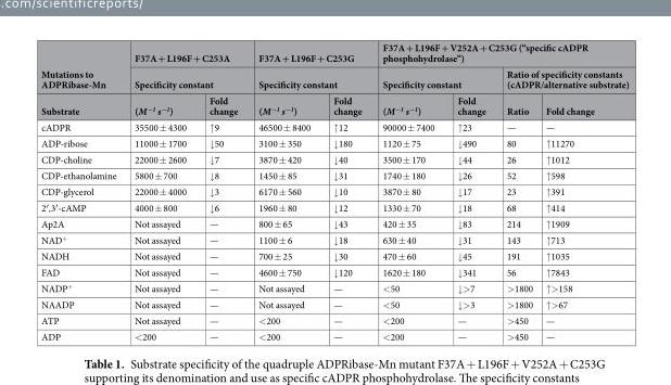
<table><thead><tr><td rowspan="3">Mutations to ADPRibase-Mn Substrate</td><td rowspan="2" colspan="2">F37A + L196F + C253A Specificity constant</td><td rowspan="2" colspan="2">F37A + L196F + C253G Specificity constant</td><td colspan="4">F37A + L196F + V252A + C253G (“specific cADPR phosphohydrolase”)</td></tr><tr><td colspan="2">Specificity constant</td><td colspan="2">Ratio of specificity constants (cADPR/alternative substrate)</td></tr><tr><td>(M<sup>−1</sup> s<sup>−1</sup>)</td><td>Fold change</td><td>(M<sup>−1</sup> s<sup>−1</sup>)</td><td>Fold change</td><td>(M<sup>−1</sup> s<sup>−1</sup>)</td><td>Fold change</td><td>Ratio</td><td>Fold change</td></tr></thead><tbody><tr><td>cADPR</td><td>35500 ± 4300</td><td>↑9</td><td>46500 ± 8400</td><td>↑12</td><td>90000 ± 7400</td><td>↑23</td><td>—</td><td>—</td></tr><tr><td>ADP-ribose</td><td>11000 ± 1700</td><td>↓50</td><td>3100 ± 350</td><td>↓180</td><td>1120 ± 75</td><td>↓490</td><td>80</td><td>↑11270</td></tr><tr><td>CDP-choline</td><td>22000 ± 2600</td><td>↓7</td><td>3870 ± 420</td><td>↓40</td><td>3500 ± 170</td><td>↓44</td><td>26</td><td>↑1012</td></tr><tr><td>CDP-ethanolamine</td><td>5800 ± 700</td><td>↓8</td><td>1450 ± 85</td><td>↓31</td><td>1740 ± 180</td><td>↓26</td><td>52</td><td>↑598</td></tr><tr><td>CDP-glycerol</td><td>22000 ± 4000</td><td>↓3</td><td>6170 ± 560</td><td>↓10</td><td>3870 ± 80</td><td>↓17</td><td>23</td><td>↑391</td></tr><tr><td>2′,3′-cAMP</td><td>4000 ± 800</td><td>↓6</td><td>1960 ± 80</td><td>↓12</td><td>1330 ± 70</td><td>↓18</td><td>68</td><td>↑414</td></tr><tr><td>Ap2A</td><td>Not assayed</td><td>—</td><td>800 ± 65</td><td>↓43</td><td>420 ± 35</td><td>↓83</td><td>214</td><td>↑1909</td></tr><tr><td>NAD<sup>+</sup></td><td>Not assayed</td><td>—</td><td>1100 ± 6</td><td>↓18</td><td>630 ± 40</td><td>↓31</td><td>143</td><td>↑713</td></tr><tr><td>NADH</td><td>Not assayed</td><td>—</td><td>700 ± 25</td><td>↓30</td><td>470 ± 60</td><td>↓45</td><td>191</td><td>↑1035</td></tr><tr><td>FAD</td><td>Not assayed</td><td>—</td><td>4600 ± 750</td><td>↓120</td><td>1620 ± 180</td><td>↓341</td><td>56</td><td>↑7843</td></tr><tr><td>NADP<sup>+</sup></td><td>Not assayed</td><td>—</td><td>Not assayed</td><td>—</td><td>&lt;50</td><td>↓&gt;7</td><td>&gt;1800</td><td>↑&gt;158</td></tr><tr><td>NAADP</td><td>Not assayed</td><td>—</td><td>Not assayed</td><td>—</td><td>&lt;50</td><td>↓&gt;3</td><td>&gt;1800</td><td>↑&gt;67</td></tr><tr><td>ATP</td><td>Not assayed</td><td>—</td><td>&lt;200</td><td>—</td><td>&lt;200</td><td>—</td><td>&gt;450</td><td>—</td></tr><tr><td>ADP</td><td>&lt;200</td><td>—</td><td>&lt;200</td><td>—</td><td>&lt;200</td><td>—</td><td>&gt;450</td><td>—</td></tr></tbody></table>